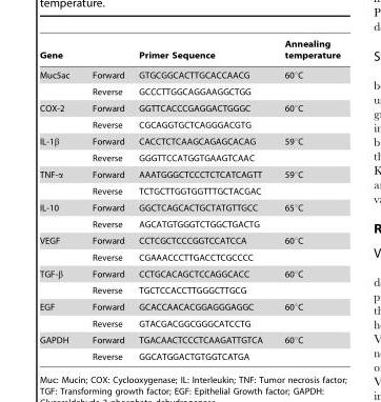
<table><thead><tr><td>Gene</td><td></td><td>Primer Sequence</td><td>Annealing temperature</td></tr></thead><tbody><tr><td rowspan="2">Muc5ac</td><td>Forward</td><td>GTGCGGCACTTGCACCAACG</td><td>60°C</td></tr><tr><td>Reverse</td><td>GCCCTTGGCAGGAAGGCTGG</td><td></td></tr><tr><td rowspan="2">COX-2</td><td>Forward</td><td>GGTTCACCCGAGGACTGGGC</td><td>60°C</td></tr><tr><td>Reverse</td><td>CGCAGGTGCTCAGGGACGTG</td><td></td></tr><tr><td rowspan="2">IL-1β</td><td>Forward</td><td>CACCTCTCAAGCAGAGCACAG</td><td>59°C</td></tr><tr><td>Reverse</td><td>GGGTTCCATGGTGAAGTCAAC</td><td></td></tr><tr><td rowspan="2">TNF-α</td><td>Forward</td><td>AAATGGGCTCCCTCTCATCAGTT</td><td>59°C</td></tr><tr><td>Reverse</td><td>TCTGCTTGGTGGTTTGCTACGAC</td><td></td></tr><tr><td rowspan="2">IL-10</td><td>Forward</td><td>GGCTCAGCACTGCTATGTTGCC</td><td>65°C</td></tr><tr><td>Reverse</td><td>AGCATGTGGGTCTGGCTGACTG</td><td></td></tr><tr><td rowspan="2">VEGF</td><td>Forward</td><td>CCTCGCTCCCGGTCCATCCA</td><td>60°C</td></tr><tr><td>Reverse</td><td>CGAAACCCTTGACCTCGCCCC</td><td></td></tr><tr><td rowspan="2">TGF-β</td><td>Forward</td><td>CCTGCACAGCTCCAGGCACC</td><td>60°C</td></tr><tr><td>Reverse</td><td>TGCTCCACCTTGGGCTTGCG</td><td></td></tr><tr><td rowspan="2">EGF</td><td>Forward</td><td>GCACCAACACGGAGGGAGGC</td><td>60°C</td></tr><tr><td>Reverse</td><td>GTACGACGGCGGGCATCCTG</td><td></td></tr><tr><td rowspan="2">GAPDH</td><td>Forward</td><td>TGACAACTCCCTCAAGATTGTCA</td><td>60°C</td></tr><tr><td>Reverse</td><td>GGCATGGACTGTGGTCATGA</td><td></td></tr></tbody></table>